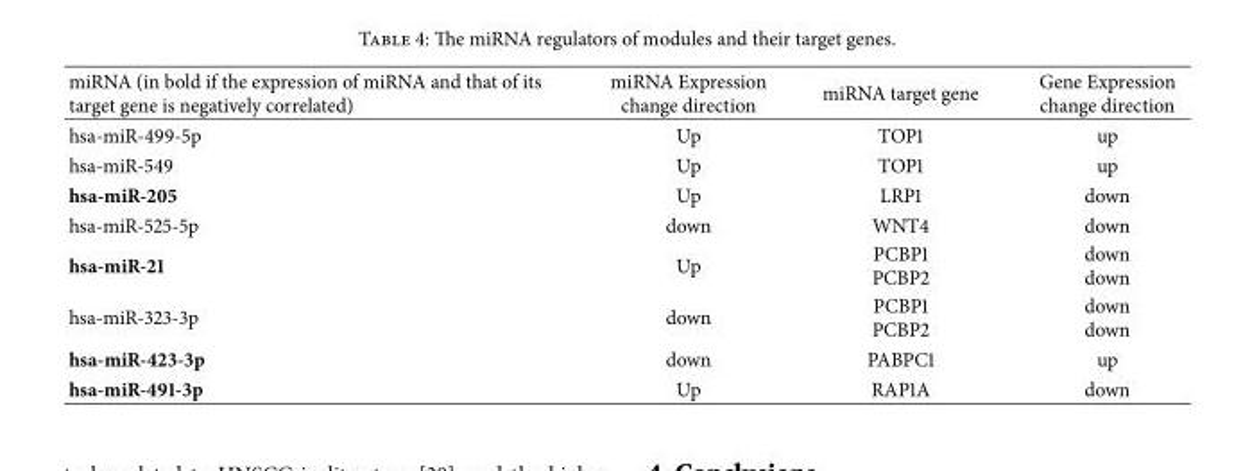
<table><thead><tr><td>miRNA (in bold if the expression of miRNA and that of its target gene is negatively correlated)</td><td>miRNA Expression change direction</td><td>miRNA target gene</td><td>Gene Expression change direction</td></tr></thead><tbody><tr><td>hsa-miR-499-5p</td><td>Up</td><td>TOP1</td><td>up</td></tr><tr><td>hsa-miR-549</td><td>Up</td><td>TOP1</td><td>up</td></tr><tr><td>hsa-miR-205</td><td>Up</td><td>LRP1</td><td>down</td></tr><tr><td>hsa-miR-525-5p</td><td>down</td><td>WNT4</td><td>down</td></tr><tr><td>hsa-miR-21</td><td>Up</td><td>PCBP1 PCBP2</td><td>down down</td></tr><tr><td>hsa-miR-323-3p</td><td>down</td><td>PCBP1 PCBP2</td><td>down down</td></tr><tr><td>hsa-miR-423-3p</td><td>down</td><td>PABPC1</td><td>up</td></tr><tr><td>hsa-miR-491-3p</td><td>Up</td><td>RAP1A</td><td>down</td></tr></tbody></table>